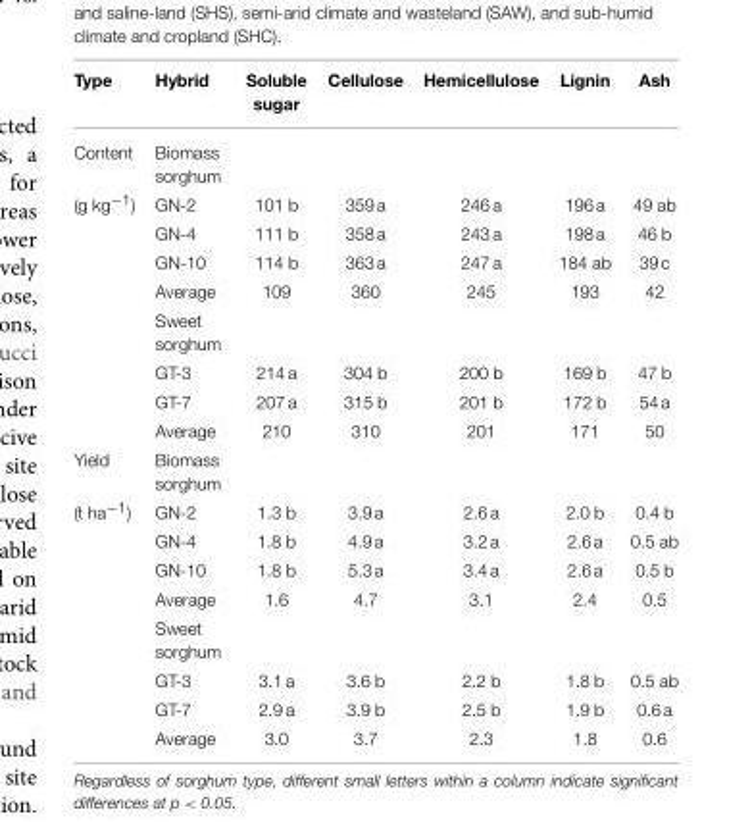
<table><thead><tr><td>Type</td><td>Hybrid</td><td>Soluble sugar</td><td>Cellulose</td><td>Hemicellulose</td><td>Lignin</td><td>Ash</td></tr></thead><tbody><tr><td>Content</td><td>Biomass sorghum</td><td></td><td></td><td></td><td></td><td></td></tr><tr><td rowspan="8">(g kg<sup>−1</sup>)</td><td>GN-2</td><td>101 b</td><td>359 a</td><td>246 a</td><td>196 a</td><td>49 ab</td></tr><tr><td>GN-4</td><td>111 b</td><td>358 a</td><td>243 a</td><td>198 a</td><td>46 b</td></tr><tr><td>GN-10</td><td>114 b</td><td>363 a</td><td>247 a</td><td>184 ab</td><td>39 c</td></tr><tr><td>Average</td><td>109</td><td>360</td><td>245</td><td>193</td><td>42</td></tr><tr><td>Sweet sorghum</td><td></td><td></td><td></td><td></td><td></td></tr><tr><td>GT-3</td><td>214 a</td><td>304 b</td><td>200 b</td><td>169 b</td><td>47 b</td></tr><tr><td>GT-7</td><td>207 a</td><td>315 b</td><td>201 b</td><td>172 b</td><td>54 a</td></tr><tr><td>Average</td><td>210</td><td>310</td><td>201</td><td>171</td><td>50</td></tr><tr><td>Yield</td><td>Biomass sorghum</td><td></td><td></td><td></td><td></td><td></td></tr><tr><td rowspan="8">(t ha<sup>−1</sup>)</td><td>GN-2</td><td>1.3 b</td><td>3.9 a</td><td>2.6 a</td><td>2.0 b</td><td>0.4 b</td></tr><tr><td>GN-4</td><td>1.8 b</td><td>4.9 a</td><td>3.2 a</td><td>2.6 a</td><td>0.5 ab</td></tr><tr><td>GN-10</td><td>1.8 b</td><td>5.3 a</td><td>3.4 a</td><td>2.6 a</td><td>0.5 b</td></tr><tr><td>Average</td><td>1.6</td><td>4.7</td><td>3.1</td><td>2.4</td><td>0.5</td></tr><tr><td>Sweet sorghum</td><td></td><td></td><td></td><td></td><td></td></tr><tr><td>GT-3</td><td>3.1 a</td><td>3.6 b</td><td>2.2 b</td><td>1.8 b</td><td>0.5 ab</td></tr><tr><td>GT-7</td><td>2.9 a</td><td>3.9 b</td><td>2.5 b</td><td>1.9 b</td><td>0.6 a</td></tr><tr><td>Average</td><td>3.0</td><td>3.7</td><td>2.3</td><td>1.8</td><td>0.6</td></tr></tbody></table>